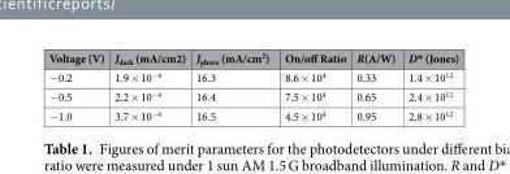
<table><thead><tr><td>Voltage (V)</td><td>J<sub>dark</sub> (mA/cm2)</td><td>J<sub>photo</sub> (mA/cm<sup>2</sup>)</td><td>On/off Ratio</td><td>R(A/W)</td><td>D* (Jones)</td></tr></thead><tbody><tr><td>−0.2</td><td>1.9 × 10<sup>−4</sup></td><td>16.3</td><td>8.6 × 10<sup>4</sup></td><td>0.33</td><td>1.4 × 10<sup>12</sup></td></tr><tr><td>−0.5</td><td>2.2 × 10<sup>−4</sup></td><td>16.4</td><td>7.5 × 10<sup>4</sup></td><td>0.65</td><td>2.4 × 10<sup>12</sup></td></tr><tr><td>−1.0</td><td>3.7 × 10<sup>−4</sup></td><td>16.5</td><td>4.5 × 10<sup>4</sup></td><td>0.95</td><td>2.8 × 10<sup>12</sup></td></tr></tbody></table>